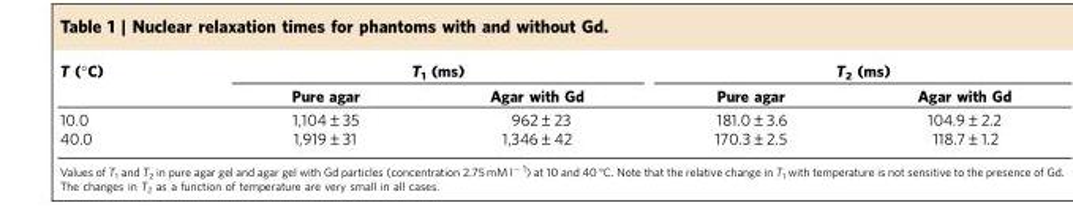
<table><thead><tr><td rowspan="2">T (°C)</td><td colspan="2">T<sub>1</sub> (ms)</td><td colspan="2">T<sub>2</sub> (ms)</td></tr><tr><td>Pure agar</td><td>Agar with Gd</td><td>Pure agar</td><td>Agar with Gd</td></tr></thead><tbody><tr><td>10.0</td><td>1,104±35</td><td>962±23</td><td>181.0±3.6</td><td>104.9±2.2</td></tr><tr><td>40.0</td><td>1,919±31</td><td>1,346±42</td><td>170.3±2.5</td><td>118.7±1.2</td></tr></tbody></table>